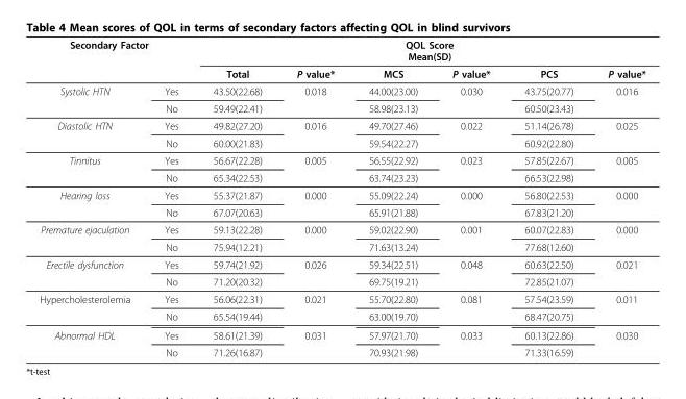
<table><thead><tr><td colspan="2">Secondary Factor</td><td colspan="6">QOL Score Mean(SD)</td></tr><tr><td></td><td></td><td>Total</td><td>P value*</td><td>MCS</td><td>P value*</td><td>PCS</td><td>P value*</td></tr></thead><tbody><tr><td rowspan="2">Systolic HTN</td><td>Yes</td><td>43.50(22.68)</td><td>0.018</td><td>44.00(23.00)</td><td>0.030</td><td>43.75(20.77)</td><td>0.016</td></tr><tr><td>No</td><td>59.49(22.41)</td><td></td><td>58.98(23.13)</td><td></td><td>60.50(23.43)</td><td></td></tr><tr><td rowspan="2">Diastolic HTN</td><td>Yes</td><td>49.82(27.20)</td><td>0.016</td><td>49.70(27.46)</td><td>0.022</td><td>51.14(26.78)</td><td>0.025</td></tr><tr><td>No</td><td>60.00(21.83)</td><td></td><td>59.54(22.27)</td><td></td><td>60.92(22.80)</td><td></td></tr><tr><td rowspan="2">Tinnitus</td><td>Yes</td><td>56.67(22.28)</td><td>0.005</td><td>56.55(22.92)</td><td>0.023</td><td>57.85(22.67)</td><td>0.005</td></tr><tr><td>No</td><td>65.34(22.53)</td><td></td><td>63.74(23.23)</td><td></td><td>66.53(22.98)</td><td></td></tr><tr><td rowspan="2">Hearing loss</td><td>Yes</td><td>55.37(21.87)</td><td>0.000</td><td>55.09(22.24)</td><td>0.000</td><td>56.80(22.53)</td><td>0.000</td></tr><tr><td>No</td><td>67.07(20.63)</td><td></td><td>65.91(21.88)</td><td></td><td>67.83(21.20)</td><td></td></tr><tr><td rowspan="2">Premature ejaculation</td><td>Yes</td><td>59.13(22.28)</td><td>0.000</td><td>59.02(22.90)</td><td>0.001</td><td>60.07(22.83)</td><td>0.000</td></tr><tr><td>No</td><td>75.94(12.21)</td><td></td><td>71.63(13.24)</td><td></td><td>77.68(12.60)</td><td></td></tr><tr><td rowspan="2">Erectile dysfunction</td><td>Yes</td><td>59.74(21.92)</td><td>0.026</td><td>59.34(22.51)</td><td>0.048</td><td>60.63(22.50)</td><td>0.021</td></tr><tr><td>No</td><td>71.20(20.32)</td><td></td><td>69.75(19.21)</td><td></td><td>72.85(21.07)</td><td></td></tr><tr><td rowspan="2">Hypercholesterolemia</td><td>Yes</td><td>56.06(22.31)</td><td>0.021</td><td>55.70(22.80)</td><td>0.081</td><td>57.54(23.59)</td><td>0.011</td></tr><tr><td>No</td><td>65.54(19.44)</td><td></td><td>63.00(19.70)</td><td></td><td>68.47(20.75)</td><td></td></tr><tr><td rowspan="2">Abnormal HDL</td><td>Yes</td><td>58.61(21.39)</td><td>0.031</td><td>57.97(21.70)</td><td>0.033</td><td>60.13(22.86)</td><td>0.030</td></tr><tr><td>No</td><td>71.26(16.87)</td><td></td><td>70.93(21.98)</td><td></td><td>71.33(16.59)</td><td></td></tr></tbody></table>